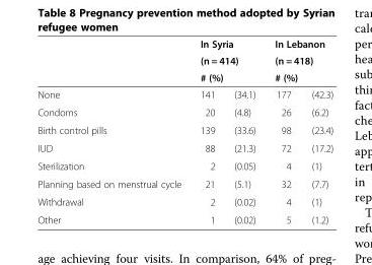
<table><thead><tr><td rowspan="4">None</td><td rowspan="3" colspan="2">In Syria (n = 414) # (%)</td><td rowspan="3" colspan="2">In Lebanon (n = 418) # (%)</td></tr><tr></tr><tr></tr><tr><td>141</td><td>(34.1)</td><td>177</td><td>(42.3)</td></tr></thead><tbody><tr><td>Condoms</td><td>20</td><td>(4.8)</td><td>26</td><td>(6.2)</td></tr><tr><td>Birth control pills</td><td>139</td><td>(33.6)</td><td>98</td><td>(23.4)</td></tr><tr><td>IUD</td><td>88</td><td>(21.3)</td><td>72</td><td>(17.2)</td></tr><tr><td>Sterilization</td><td>2</td><td>(0.05)</td><td>4</td><td>(1)</td></tr><tr><td>Planning based on menstrual cycle</td><td>21</td><td>(5.1)</td><td>32</td><td>(7.7)</td></tr><tr><td>Withdrawal</td><td>2</td><td>(0.02)</td><td>4</td><td>(1)</td></tr><tr><td>Other</td><td>1</td><td>(0.02)</td><td>5</td><td>(1.2)</td></tr></tbody></table>